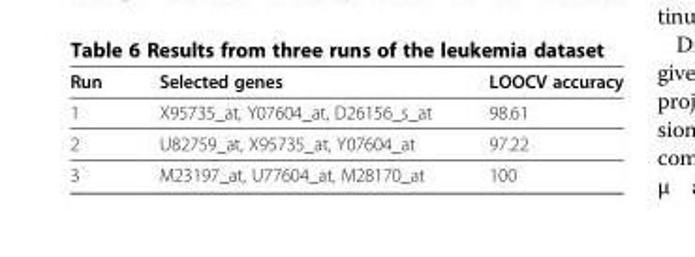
<table><thead><tr><td>Run</td><td>Selected genes</td><td>LOOCV accuracy</td></tr></thead><tbody><tr><td>1</td><td>X95735_at, Y07604_at, D26156_s_at</td><td>98.61</td></tr><tr><td>2</td><td>U82759_at, X95735_at, Y07604_at</td><td>97.22</td></tr><tr><td>3</td><td>M23197_at, U77604_at, M28170_at</td><td>100</td></tr></tbody></table>